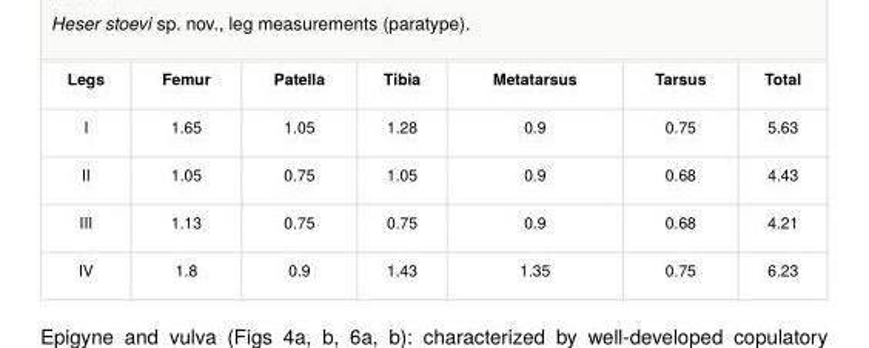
<table><tbody><tr><td>Legs</td><td>Femur</td><td>Patella</td><td>Tibia</td><td>Metatarsus</td><td>Tarsus</td><td>Total</td></tr><tr><td>I</td><td>1.65</td><td>1.05</td><td>1.28</td><td>0.9</td><td>0.75</td><td>5.63</td></tr><tr><td>II</td><td>1.05</td><td>0.75</td><td>1.05</td><td>0.9</td><td>0.68</td><td>4.43</td></tr><tr><td>III</td><td>1.13</td><td>0.75</td><td>0.75</td><td>0.9</td><td>0.68</td><td>4.21</td></tr><tr><td>IV</td><td>1.8</td><td>0.9</td><td>1.43</td><td>1.35</td><td>0.75</td><td>6.23</td></tr></tbody></table>